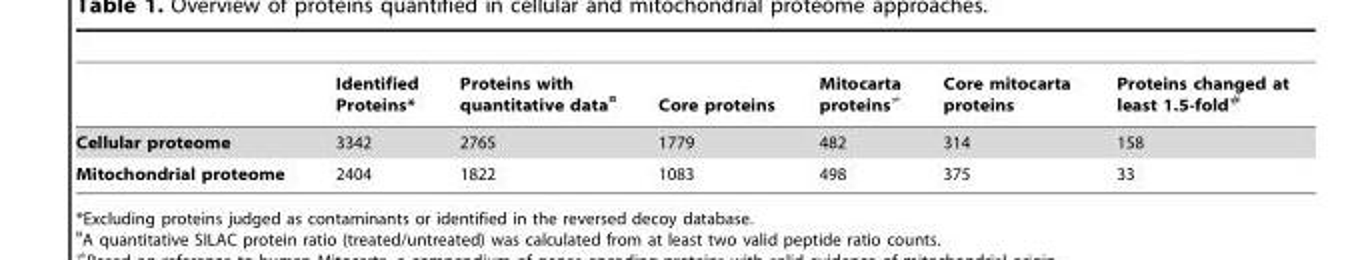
<table><thead><tr><td></td><td>Identified Proteins*</td><td>Proteins with quantitative data¤</td><td>Core proteins</td><td>Mitocarta proteins≠</td><td>Core mitocarta proteins</td><td>Proteins changed at least 1.5-fold#</td></tr></thead><tbody><tr><td>Cellular proteome</td><td>3342</td><td>2765</td><td>1779</td><td>482</td><td>314</td><td>158</td></tr><tr><td>Mitochondrial proteome</td><td>2404</td><td>1822</td><td>1083</td><td>498</td><td>375</td><td>33</td></tr></tbody></table>